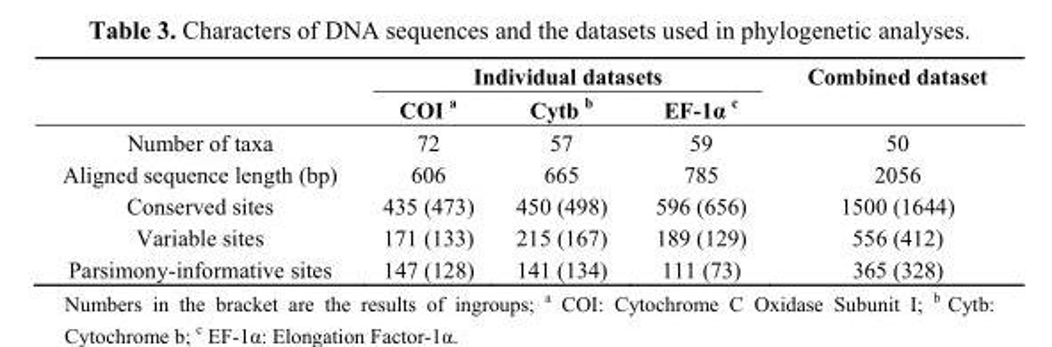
<table><thead><tr><td rowspan="2"></td><td colspan="3">Individual datasets</td><td rowspan="2">Combined dataset</td></tr><tr><td>COI a</td><td>Cytb b</td><td>EF-1α c</td></tr></thead><tbody><tr><td>Number of taxa</td><td>72</td><td>57</td><td>59</td><td>50</td></tr><tr><td>Aligned sequence length (bp)</td><td>606</td><td>665</td><td>785</td><td>2056</td></tr><tr><td>Conserved sites</td><td>435 (473)</td><td>450 (498)</td><td>596 (656)</td><td>1500 (1644)</td></tr><tr><td>Variable sites</td><td>171 (133)</td><td>215 (167)</td><td>189 (129)</td><td>556 (412)</td></tr><tr><td>Parsimony-informative sites</td><td>147 (128)</td><td>141 (134)</td><td>111 (73)</td><td>365 (328)</td></tr></tbody></table>